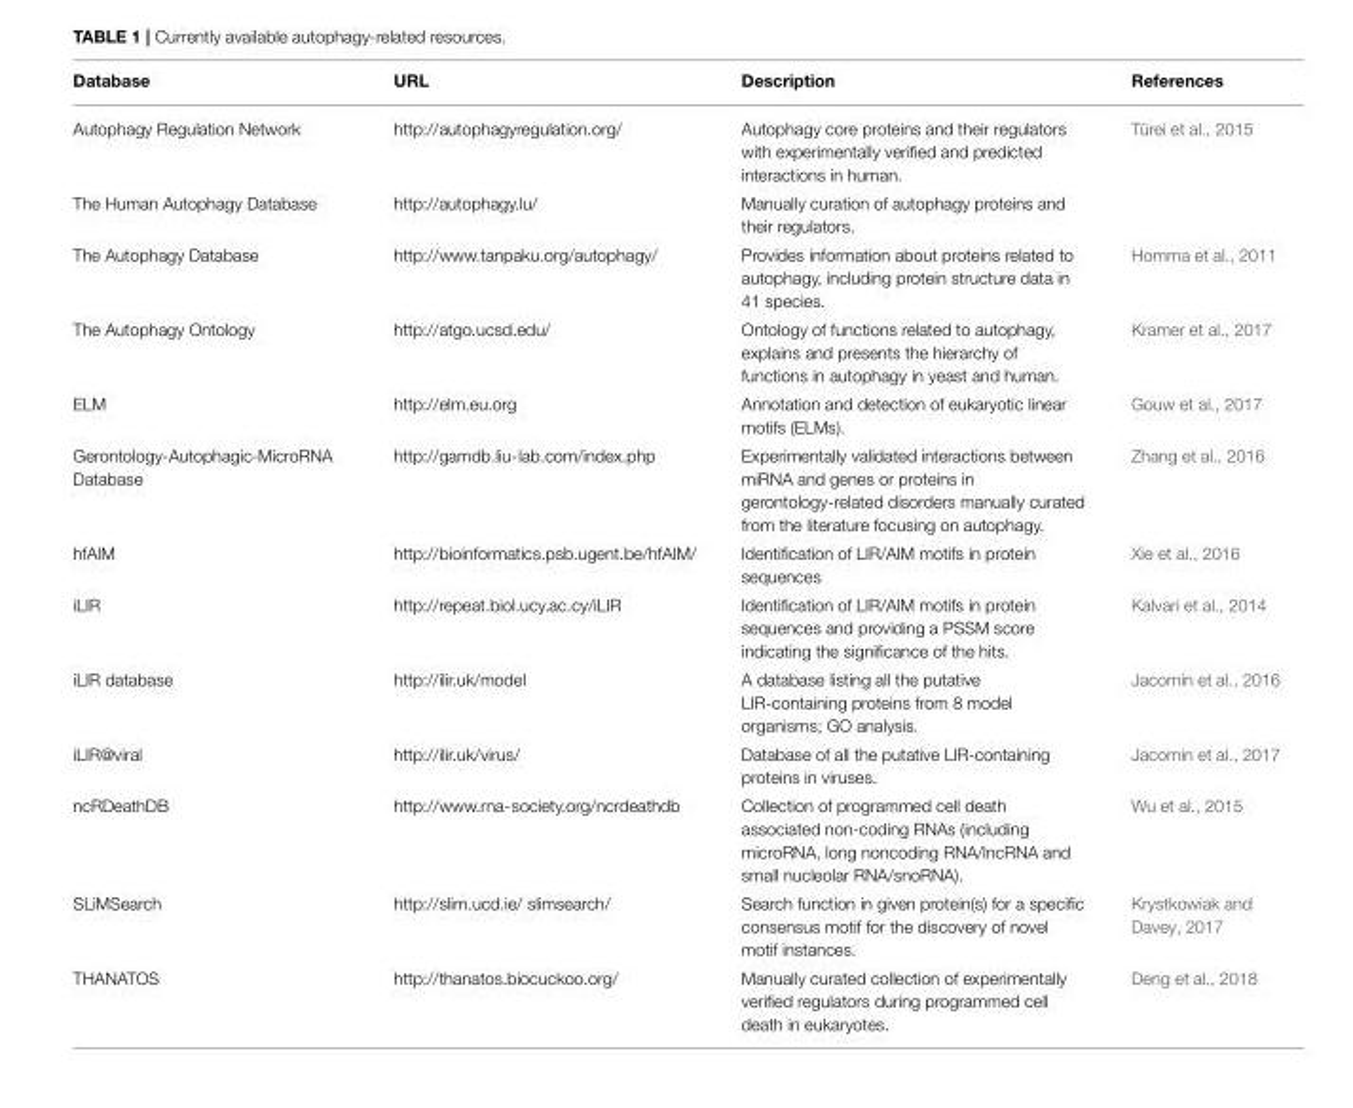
<table><thead><tr><td>Database</td><td>URL</td><td>Description</td><td>References</td></tr></thead><tbody><tr><td>Autophagy Regulation Network</td><td>http://autophagyregulation.org/</td><td>Autophagy core proteins and their regulators with experimentally verified and predicted interactions in human.</td><td>Türei et al., 2015</td></tr><tr><td>The Human Autophagy Database</td><td>http://autophagy.lu/</td><td>Manually curation of autophagy proteins and their regulators.</td><td></td></tr><tr><td>The Autophagy Database</td><td>http://www.tanpaku.org/autophagy/</td><td>Provides information about proteins related to autophagy, including protein structure data in 41 species.</td><td>Homma et al., 2011</td></tr><tr><td>The Autophagy Ontology</td><td>http://atgo.ucsd.edu/</td><td>Ontology of functions related to autophagy, explains and presents the hierarchy of functions in autophagy in yeast and human.</td><td>Kramer et al., 2017</td></tr><tr><td>ELM</td><td>http://elm.eu.org</td><td>Annotation and detection of eukaryotic linear motifs (ELMs).</td><td>Gouw et al., 2017</td></tr><tr><td>Gerontology-Autophagic-MicroRNA Database</td><td>http://gamdb.liu-lab.com/index.php</td><td>Experimentally validated interactions between miRNA and genes or proteins in gerontology-related disorders manually curated from the literature focusing on autophagy.</td><td>Zhang et al., 2016</td></tr><tr><td>hfAIM</td><td>http://bioinformatics.psb.ugent.be/hfAIM/</td><td>Identification of LIR/AIM motifs in protein sequences</td><td>Xie et al., 2016</td></tr><tr><td>iLIR</td><td>http://repeat.biol.ucy.ac.cy/iLIR</td><td>Identification of LIR/AIM motifs in protein sequences and providing a PSSM score indicating the significance of the hits.</td><td>Kalvari et al., 2014</td></tr><tr><td>iLIR database</td><td>http://ilir.uk/model</td><td>A database listing all the putative LIR-containing proteins from 8 model organisms; GO analysis.</td><td>Jacomin et al., 2016</td></tr><tr><td>iLIR@viral</td><td>http://ilir.uk/virus/</td><td>Database of all the putative LIR-containing proteins in viruses.</td><td>Jacomin et al., 2017</td></tr><tr><td>ncRDeathDB</td><td>http://www.rna-society.org/ncrdeathdb</td><td>Collection of programmed cell death associated non-coding RNAs (including microRNA, long noncoding RNA/lncRNA and small nucleolar RNA/snoRNA).</td><td>Wu et al., 2015</td></tr><tr><td>SLiMSearch</td><td>http://slim.ucd.ie/ slimsearch/</td><td>Search function in given protein(s) for a specific consensus motif for the discovery of novel motif instances.</td><td>Krystkowiak and Davey, 2017</td></tr><tr><td>THANATOS</td><td>http://thanatos.biocuckoo.org/</td><td>Manually curated collection of experimentally verified regulators during programmed cell death in eukaryotes.</td><td>Deng et al., 2018</td></tr></tbody></table>